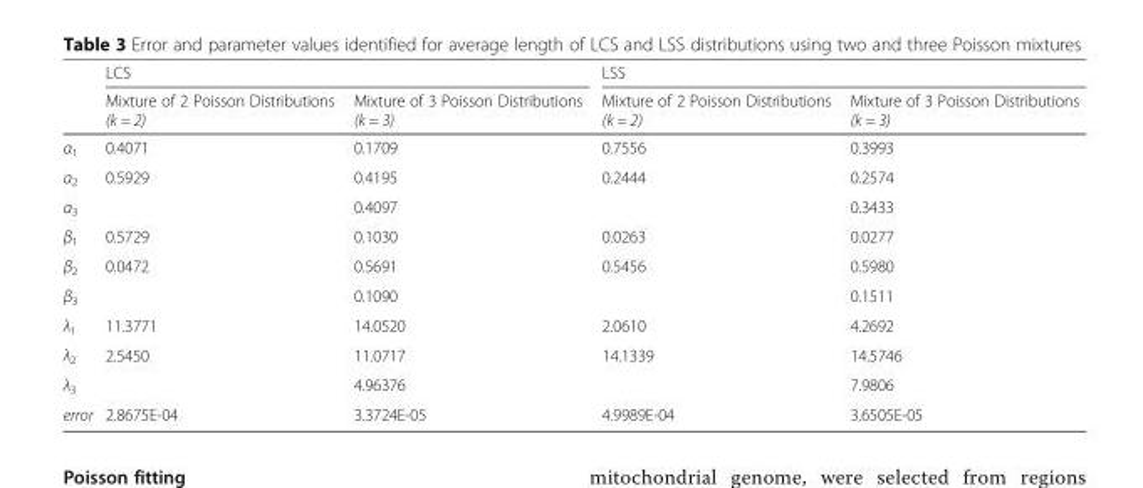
<table><thead><tr><td rowspan="2"></td><td colspan="2">LCS</td><td colspan="2">LSS</td></tr><tr><td>Mixture of 2 Poisson Distributions (k = 2)</td><td>Mixture of 3 Poisson Distributions (k = 3)</td><td>Mixture of 2 Poisson Distributions (k = 2)</td><td>Mixture of 3 Poisson Distributions (k = 3)</td></tr></thead><tbody><tr><td>α<sub>1</sub></td><td>0.4071</td><td>0.1709</td><td>0.7556</td><td>0.3993</td></tr><tr><td>α<sub>2</sub></td><td>0.5929</td><td>0.4195</td><td>0.2444</td><td>0.2574</td></tr><tr><td>α<sub>3</sub></td><td></td><td>0.4097</td><td></td><td>0.3433</td></tr><tr><td>β<sub>1</sub></td><td>0.5729</td><td>0.1030</td><td>0.0263</td><td>0.0277</td></tr><tr><td>β<sub>2</sub></td><td>0.0472</td><td>0.5691</td><td>0.5456</td><td>0.5980</td></tr><tr><td>β<sub>3</sub></td><td></td><td>0.1090</td><td></td><td>0.1511</td></tr><tr><td>λ<sub>1</sub></td><td>11.3771</td><td>14.0520</td><td>2.0610</td><td>4.2692</td></tr><tr><td>λ<sub>2</sub></td><td>2.5450</td><td>11.0717</td><td>14.1339</td><td>14.5746</td></tr><tr><td>λ<sub>3</sub></td><td></td><td>4.96376</td><td></td><td>7.9806</td></tr><tr><td>error</td><td>2.8675E-04</td><td>3.3724E-05</td><td>4.9989E-04</td><td>3.6505E-05</td></tr></tbody></table>